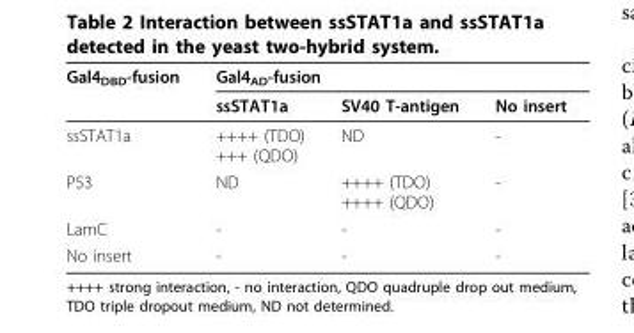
<table><tbody><tr><td rowspan="2">Gal4<sub>DBD</sub>-fusion</td><td colspan="3">Gal4<sub>AD</sub>-fusion</td></tr><tr><td>ssSTAT1a</td><td>SV40 T-antigen</td><td>No insert</td></tr><tr><td>ssSTAT1a</td><td>++++ (TDO) +++ (QDO)</td><td>ND</td><td>-</td></tr><tr><td>P53</td><td>ND</td><td>++++ (TDO) ++++ (QDO)</td><td>-</td></tr><tr><td>LamC</td><td>-</td><td>-</td><td>-</td></tr><tr><td>No insert</td><td>-</td><td>-</td><td>-</td></tr></tbody></table>